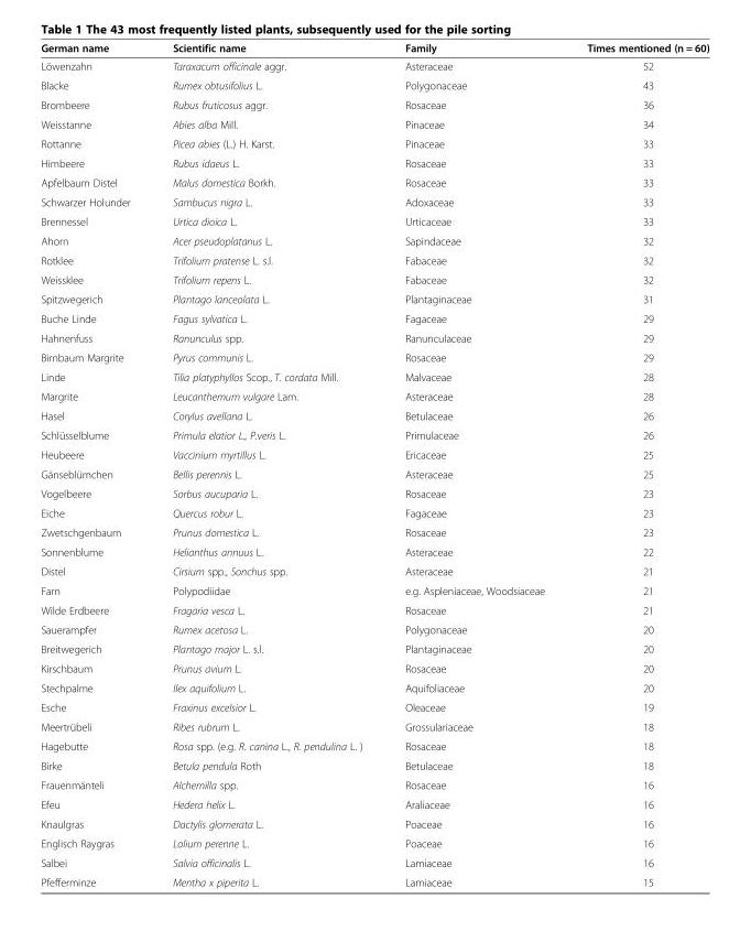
<table><thead><tr><td>German name</td><td>Scientific name</td><td>Family</td><td>Times mentioned (n = 60)</td></tr></thead><tbody><tr><td>Löwenzahn</td><td>Taraxacum officinale aggr.</td><td>Asteraceae</td><td>52</td></tr><tr><td>Blacke</td><td>Rumex obtusifolius L.</td><td>Polygonaceae</td><td>43</td></tr><tr><td>Brombeere</td><td>Rubus fruticosus aggr.</td><td>Rosaceae</td><td>36</td></tr><tr><td>Weisstanne</td><td>Abies alba Mill.</td><td>Pinaceae</td><td>34</td></tr><tr><td>Rottanne</td><td>Picea abies (L.) H. Karst.</td><td>Pinaceae</td><td>33</td></tr><tr><td>Himbeere</td><td>Rubus idaeus L.</td><td>Rosaceae</td><td>33</td></tr><tr><td>Apfelbaum Distel</td><td>Malus domestica Borkh.</td><td>Rosaceae</td><td>33</td></tr><tr><td>Schwarzer Holunder</td><td>Sambucus nigra L.</td><td>Adoxaceae</td><td>33</td></tr><tr><td>Brennessel</td><td>Urtica dioica L.</td><td>Urticaceae</td><td>33</td></tr><tr><td>Ahorn</td><td>Acer pseudoplatanus L.</td><td>Sapindaceae</td><td>32</td></tr><tr><td>Rotklee</td><td>Trifolium pratense L. s.l.</td><td>Fabaceae</td><td>32</td></tr><tr><td>Weissklee</td><td>Trifolium repens L.</td><td>Fabaceae</td><td>32</td></tr><tr><td>Spitzwegerich</td><td>Plantago lanceolata L.</td><td>Plantaginaceae</td><td>31</td></tr><tr><td>Buche Linde</td><td>Fagus sylvatica L.</td><td>Fagaceae</td><td>29</td></tr><tr><td>Hahnenfuss</td><td>Ranunculus spp.</td><td>Ranunculaceae</td><td>29</td></tr><tr><td>Birnbaum Margrite</td><td>Pyrus communis L.</td><td>Rosaceae</td><td>29</td></tr><tr><td>Linde</td><td>Tilia platyphyllos Scop., T. cordata Mill.</td><td>Malvaceae</td><td>28</td></tr><tr><td>Margrite</td><td>Leucanthemum vulgare Lam.</td><td>Asteraceae</td><td>28</td></tr><tr><td>Hasel</td><td>Corylus avellana L.</td><td>Betulaceae</td><td>26</td></tr><tr><td>Schlüsselblume</td><td>Primula elatior L., P.veris L.</td><td>Primulaceae</td><td>26</td></tr><tr><td>Heubeere</td><td>Vaccinium myrtillus L.</td><td>Ericaceae</td><td>25</td></tr><tr><td>Gänseblümchen</td><td>Bellis perennis L.</td><td>Asteraceae</td><td>25</td></tr><tr><td>Vogelbeere</td><td>Sorbus aucuparia L.</td><td>Rosaceae</td><td>23</td></tr><tr><td>Eiche</td><td>Quercus robur L.</td><td>Fagaceae</td><td>23</td></tr><tr><td>Zwetschgenbaum</td><td>Prunus domestica L.</td><td>Rosaceae</td><td>23</td></tr><tr><td>Sonnenblume</td><td>Helianthus annuus L.</td><td>Asteraceae</td><td>22</td></tr><tr><td>Distel</td><td>Cirsium spp., Sonchus spp.</td><td>Asteraceae</td><td>21</td></tr><tr><td>Farn</td><td>Polypodiidae</td><td>e.g. Aspleniaceae, Woodsiaceae</td><td>21</td></tr><tr><td>Wilde Erdbeere</td><td>Fragaria vesca L.</td><td>Rosaceae</td><td>21</td></tr><tr><td>Sauerampfer</td><td>Rumex acetosa L.</td><td>Polygonaceae</td><td>20</td></tr><tr><td>Breitwegerich</td><td>Plantago major L. s.l.</td><td>Plantaginaceae</td><td>20</td></tr><tr><td>Kirschbaum</td><td>Prunus avium L.</td><td>Rosaceae</td><td>20</td></tr><tr><td>Stechpalme</td><td>Ilex aquifolium L.</td><td>Aquifoliaceae</td><td>20</td></tr><tr><td>Esche</td><td>Fraxinus excelsior L.</td><td>Oleaceae</td><td>19</td></tr><tr><td>Meertrübeli</td><td>Ribes rubrum L.</td><td>Grossulariaceae</td><td>18</td></tr><tr><td>Hagebutte</td><td>Rosa spp. (e.g. R. canina L., R. pendulina L. )</td><td>Rosaceae</td><td>18</td></tr><tr><td>Birke</td><td>Betula pendula Roth</td><td>Betulaceae</td><td>18</td></tr><tr><td>Frauenmänteli</td><td>Alchemilla spp.</td><td>Rosaceae</td><td>16</td></tr><tr><td>Efeu</td><td>Hedera helix L.</td><td>Araliaceae</td><td>16</td></tr><tr><td>Knaulgras</td><td>Dactylis glomerata L.</td><td>Poaceae</td><td>16</td></tr><tr><td>Englisch Raygras</td><td>Lolium perenne L.</td><td>Poaceae</td><td>16</td></tr><tr><td>Salbei</td><td>Salvia officinalis L.</td><td>Lamiaceae</td><td>16</td></tr><tr><td>Pfefferminze</td><td>Mentha x piperita L.</td><td>Lamiaceae</td><td>15</td></tr></tbody></table>